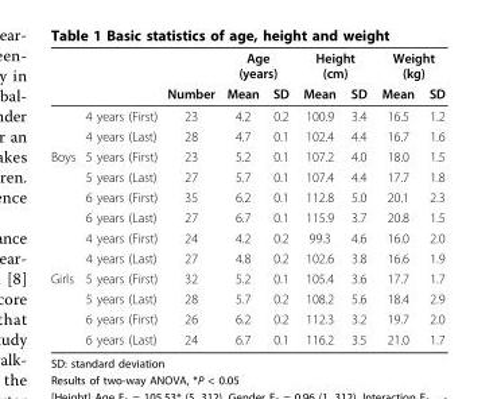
<table><thead><tr><td rowspan="2"></td><td rowspan="2"></td><td rowspan="2">Number</td><td colspan="2">Age (years)</td><td colspan="2">Height (cm)</td><td colspan="2">Weight (kg)</td></tr><tr><td>Mean</td><td>SD</td><td>Mean</td><td>SD</td><td>Mean</td><td>SD</td></tr></thead><tbody><tr><td></td><td>4 years (First)</td><td>23</td><td>4.2</td><td>0.2</td><td>100.9</td><td>3.4</td><td>16.5</td><td>1.2</td></tr><tr><td></td><td>4 years (Last)</td><td>28</td><td>4.7</td><td>0.1</td><td>102.4</td><td>4.4</td><td>16.7</td><td>1.6</td></tr><tr><td rowspan="6">Boys</td><td>5 years (First)</td><td>23</td><td>5.2</td><td>0.1</td><td>107.2</td><td>4.0</td><td>18.0</td><td>1.5</td></tr><tr><td>5 years (Last)</td><td>27</td><td>5.7</td><td>0.1</td><td>107.4</td><td>4.4</td><td>17.7</td><td>1.8</td></tr><tr><td>6 years (First)</td><td>35</td><td>6.2</td><td>0.1</td><td>112.8</td><td>5.0</td><td>20.1</td><td>2.3</td></tr><tr><td>6 years (Last)</td><td>27</td><td>6.7</td><td>0.1</td><td>115.9</td><td>3.7</td><td>20.8</td><td>1.5</td></tr><tr><td>4 years (First)</td><td>24</td><td>4.2</td><td>0.2</td><td>99.3</td><td>4.6</td><td>16.0</td><td>2.0</td></tr><tr><td>4 years (Last)</td><td>27</td><td>4.8</td><td>0.2</td><td>102.6</td><td>3.8</td><td>16.6</td><td>1.9</td></tr><tr><td rowspan="4">Girls</td><td>5 years (First)</td><td>32</td><td>5.2</td><td>0.1</td><td>105.4</td><td>3.6</td><td>17.7</td><td>1.7</td></tr><tr><td>5 years (Last)</td><td>28</td><td>5.7</td><td>0.2</td><td>108.2</td><td>5.6</td><td>18.4</td><td>2.9</td></tr><tr><td>6 years (First)</td><td>26</td><td>6.2</td><td>0.2</td><td>112.3</td><td>3.2</td><td>19.7</td><td>2.0</td></tr><tr><td>6 years (Last)</td><td>24</td><td>6.7</td><td>0.1</td><td>116.2</td><td>3.5</td><td>21.0</td><td>1.7</td></tr></tbody></table>